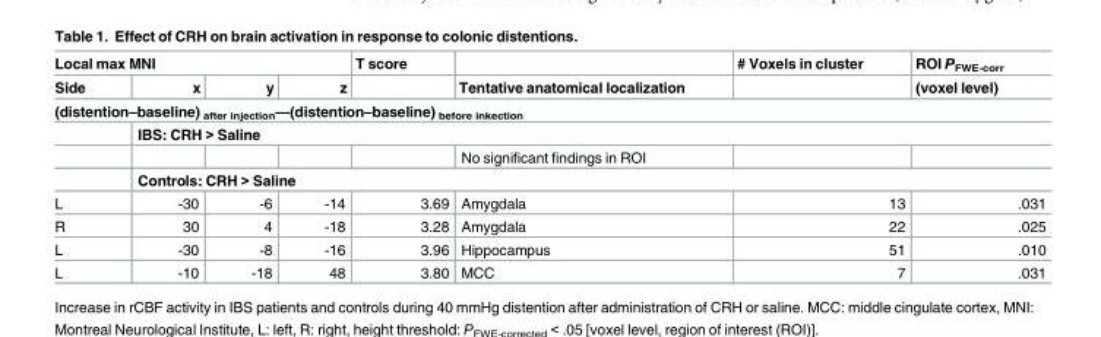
<table><thead><tr><td colspan="4">Local max MNI</td><td rowspan="2">T score</td><td rowspan="2">Tentative anatomical localization</td><td rowspan="2"># Voxels in cluster</td><td rowspan="2">ROI P<sub>FWE-corr</sub> (voxel level)</td></tr><tr><td>Side</td><td>x</td><td>y</td><td>z</td></tr></thead><tbody><tr><td colspan="8">(distention–baseline) <sub>after injection</sub>—(distention–baseline) <sub>before inkection</sub></td></tr><tr><td></td><td colspan="7">IBS: CRH &gt; Saline</td></tr><tr><td></td><td></td><td></td><td></td><td></td><td>No significant findings in ROI</td><td></td><td></td></tr><tr><td></td><td colspan="7">Controls: CRH &gt; Saline</td></tr><tr><td>L</td><td>-30</td><td>-6</td><td>-14</td><td>3.69</td><td>Amygdala</td><td>13</td><td>.031</td></tr><tr><td>R</td><td>30</td><td>4</td><td>-18</td><td>3.28</td><td>Amygdala</td><td>22</td><td>.025</td></tr><tr><td>L</td><td>-30</td><td>-8</td><td>-16</td><td>3.96</td><td>Hippocampus</td><td>51</td><td>.010</td></tr><tr><td>L</td><td>-10</td><td>-18</td><td>48</td><td>3.80</td><td>MCC</td><td>7</td><td>.031</td></tr></tbody></table>